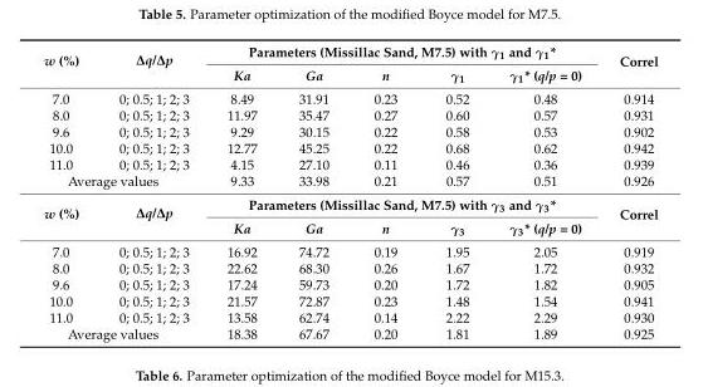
<table><tbody><tr><td rowspan="2">w (%)</td><td rowspan="2">∆q/∆p</td><td colspan="5">Parameters (Missillac Sand, M7.5) with γ<sub>1</sub> and γ<sub>1</sub>*</td><td rowspan="2">Correl</td></tr><tr><td>Ka</td><td>Ga</td><td>n</td><td>γ<sub>1</sub></td><td>γ<sub>1</sub>* (q/p = 0)</td></tr><tr><td>7.0</td><td>0; 0.5; 1; 2; 3</td><td>8.49</td><td>31.91</td><td>0.23</td><td>0.52</td><td>0.48</td><td>0.914</td></tr><tr><td>8.0</td><td>0; 0.5; 1; 2; 3</td><td>11.97</td><td>35.47</td><td>0.27</td><td>0.60</td><td>0.57</td><td>0.931</td></tr><tr><td>9.6</td><td>0; 0.5; 1; 2; 3</td><td>9.29</td><td>30.15</td><td>0.22</td><td>0.58</td><td>0.53</td><td>0.902</td></tr><tr><td>10.0</td><td>0; 0.5; 1; 2; 3</td><td>12.77</td><td>45.25</td><td>0.22</td><td>0.68</td><td>0.62</td><td>0.942</td></tr><tr><td>11.0</td><td>0; 0.5; 1; 2; 3</td><td>4.15</td><td>27.10</td><td>0.11</td><td>0.46</td><td>0.36</td><td>0.939</td></tr><tr><td colspan="2">Average values</td><td>9.33</td><td>33.98</td><td>0.21</td><td>0.57</td><td>0.51</td><td>0.926</td></tr><tr><td rowspan="2">w (%)</td><td rowspan="2">∆q/∆p</td><td colspan="5">Parameters (Missillac Sand, M7.5) with γ<sub>3</sub> and γ<sub>3</sub>*</td><td rowspan="2">Correl</td></tr><tr><td>Ka</td><td>Ga</td><td>n</td><td>γ<sub>3</sub></td><td>γ<sub>3</sub>* (q/p = 0)</td></tr><tr><td>7.0</td><td>0; 0.5; 1; 2; 3</td><td>16.92</td><td>74.72</td><td>0.19</td><td>1.95</td><td>2.05</td><td>0.919</td></tr><tr><td>8.0</td><td>0; 0.5; 1; 2; 3</td><td>22.62</td><td>68.30</td><td>0.26</td><td>1.67</td><td>1.72</td><td>0.932</td></tr><tr><td>9.6</td><td>0; 0.5; 1; 2; 3</td><td>17.24</td><td>59.73</td><td>0.20</td><td>1.72</td><td>1.82</td><td>0.905</td></tr><tr><td>10.0</td><td>0; 0.5; 1; 2; 3</td><td>21.57</td><td>72.87</td><td>0.23</td><td>1.48</td><td>1.54</td><td>0.941</td></tr><tr><td>11.0</td><td>0; 0.5; 1; 2; 3</td><td>13.58</td><td>62.74</td><td>0.14</td><td>2.22</td><td>2.29</td><td>0.930</td></tr><tr><td colspan="2">Average values</td><td>18.38</td><td>67.67</td><td>0.20</td><td>1.81</td><td>1.89</td><td>0.925</td></tr></tbody></table>